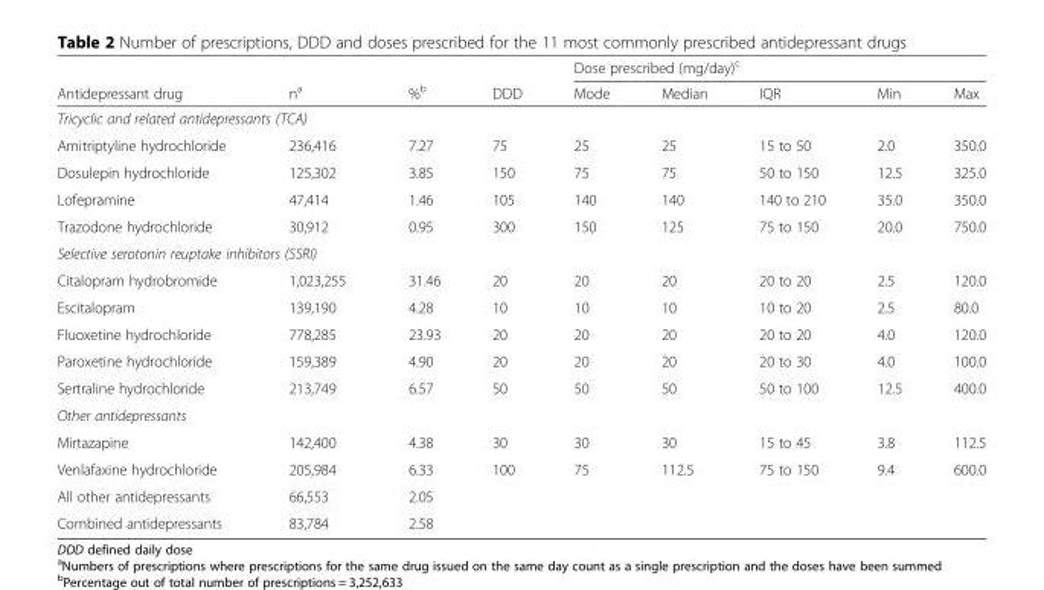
<table><thead><tr><td rowspan="2">Antidepressant drug</td><td rowspan="2">n<sup>a</sup></td><td rowspan="2">%<sup>b</sup></td><td rowspan="2">DDD</td><td colspan="5">Dose prescribed (mg/day)<sup>c</sup></td></tr><tr><td>Mode</td><td>Median</td><td>IQR</td><td>Min</td><td>Max</td></tr></thead><tbody><tr><td colspan="9">Tricyclic and related antidepressants (TCA)</td></tr><tr><td>Amitriptyline hydrochloride</td><td>236,416</td><td>7.27</td><td>75</td><td>25</td><td>25</td><td>15 to 50</td><td>2.0</td><td>350.0</td></tr><tr><td>Dosulepin hydrochloride</td><td>125,302</td><td>3.85</td><td>150</td><td>75</td><td>75</td><td>50 to 150</td><td>12.5</td><td>325.0</td></tr><tr><td>Lofepramine</td><td>47,414</td><td>1.46</td><td>105</td><td>140</td><td>140</td><td>140 to 210</td><td>35.0</td><td>350.0</td></tr><tr><td>Trazodone hydrochloride</td><td>30,912</td><td>0.95</td><td>300</td><td>150</td><td>125</td><td>75 to 150</td><td>20.0</td><td>750.0</td></tr><tr><td colspan="9">Selective serotonin reuptake inhibitors (SSRI)</td></tr><tr><td>Citalopram hydrobromide</td><td>1,023,255</td><td>31.46</td><td>20</td><td>20</td><td>20</td><td>20 to 20</td><td>2.5</td><td>120.0</td></tr><tr><td>Escitalopram</td><td>139,190</td><td>4.28</td><td>10</td><td>10</td><td>10</td><td>10 to 20</td><td>2.5</td><td>80.0</td></tr><tr><td>Fluoxetine hydrochloride</td><td>778,285</td><td>23.93</td><td>20</td><td>20</td><td>20</td><td>20 to 20</td><td>4.0</td><td>120.0</td></tr><tr><td>Paroxetine hydrochloride</td><td>159,389</td><td>4.90</td><td>20</td><td>20</td><td>20</td><td>20 to 30</td><td>4.0</td><td>100.0</td></tr><tr><td>Sertraline hydrochloride</td><td>213,749</td><td>6.57</td><td>50</td><td>50</td><td>50</td><td>50 to 100</td><td>12.5</td><td>400.0</td></tr><tr><td colspan="9">Other antidepressants</td></tr><tr><td>Mirtazapine</td><td>142,400</td><td>4.38</td><td>30</td><td>30</td><td>30</td><td>15 to 45</td><td>3.8</td><td>112.5</td></tr><tr><td>Venlafaxine hydrochloride</td><td>205,984</td><td>6.33</td><td>100</td><td>75</td><td>112.5</td><td>75 to 150</td><td>9.4</td><td>600.0</td></tr><tr><td>All other antidepressants</td><td>66,553</td><td>2.05</td><td></td><td></td><td></td><td></td><td></td><td></td></tr><tr><td>Combined antidepressants</td><td>83,784</td><td>2.58</td><td></td><td></td><td></td><td></td><td></td><td></td></tr></tbody></table>